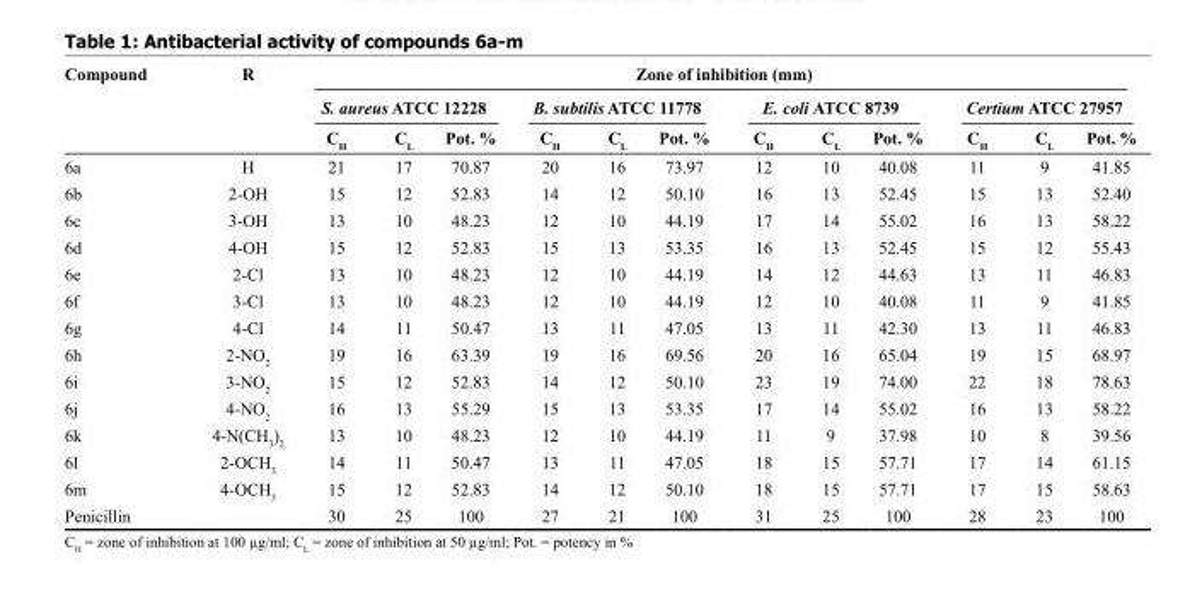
<table><thead><tr><td rowspan="3">Compound</td><td rowspan="3">R</td><td colspan="12">Zone of inhibition (mm)</td></tr><tr><td colspan="3">S. aureus ATCC 12228</td><td colspan="3">B. subtilis ATCC 11778</td><td colspan="3">E. coli ATCC 8739</td><td colspan="3">Certium ATCC 27957</td></tr><tr><td>C<sub>H</sub></td><td>C<sub>L</sub></td><td>Pot. %</td><td>C<sub>H</sub></td><td>C<sub>L</sub></td><td>Pot. %</td><td>C<sub>H</sub></td><td>C<sub>L</sub></td><td>Pot. %</td><td>C<sub>H</sub></td><td>C<sub>L</sub></td><td>Pot. %</td></tr></thead><tbody><tr><td>6a</td><td>H</td><td>21</td><td>17</td><td>70.87</td><td>20</td><td>16</td><td>73.97</td><td>12</td><td>10</td><td>40.08</td><td>11</td><td>9</td><td>41.85</td></tr><tr><td>6b</td><td>2-OH</td><td>15</td><td>12</td><td>52.83</td><td>14</td><td>12</td><td>50.10</td><td>16</td><td>13</td><td>52.45</td><td>15</td><td>13</td><td>52.40</td></tr><tr><td>6c</td><td>3-OH</td><td>13</td><td>10</td><td>48.23</td><td>12</td><td>10</td><td>44.19</td><td>17</td><td>14</td><td>55.02</td><td>16</td><td>13</td><td>58.22</td></tr><tr><td>6d</td><td>4-OH</td><td>15</td><td>12</td><td>52.83</td><td>15</td><td>13</td><td>53.35</td><td>16</td><td>13</td><td>52.45</td><td>15</td><td>12</td><td>55.43</td></tr><tr><td>6e</td><td>2-Cl</td><td>13</td><td>10</td><td>48.23</td><td>12</td><td>10</td><td>44.19</td><td>14</td><td>12</td><td>44.63</td><td>13</td><td>11</td><td>46.83</td></tr><tr><td>6f</td><td>3-Cl</td><td>13</td><td>10</td><td>48.23</td><td>12</td><td>10</td><td>44.19</td><td>12</td><td>10</td><td>40.08</td><td>11</td><td>9</td><td>41.85</td></tr><tr><td>6g</td><td>4-Cl</td><td>14</td><td>11</td><td>50.47</td><td>13</td><td>11</td><td>47.05</td><td>13</td><td>11</td><td>42.30</td><td>13</td><td>11</td><td>46.83</td></tr><tr><td>6h</td><td>2-NO<sub>2</sub></td><td>19</td><td>16</td><td>63.39</td><td>19</td><td>16</td><td>69.56</td><td>20</td><td>16</td><td>65.04</td><td>19</td><td>15</td><td>68.97</td></tr><tr><td>6i</td><td>3-NO<sub>2</sub></td><td>15</td><td>12</td><td>52.83</td><td>14</td><td>12</td><td>50.10</td><td>23</td><td>19</td><td>74.00</td><td>22</td><td>18</td><td>78.63</td></tr><tr><td>6j</td><td>4-NO<sub>2</sub></td><td>16</td><td>13</td><td>55.29</td><td>15</td><td>13</td><td>53.35</td><td>17</td><td>14</td><td>55.02</td><td>16</td><td>13</td><td>58.22</td></tr><tr><td>6k</td><td>4-N(CH<sub>3</sub>)<sub>2</sub></td><td>13</td><td>10</td><td>48.23</td><td>12</td><td>10</td><td>44.19</td><td>11</td><td>9</td><td>37.98</td><td>10</td><td>8</td><td>39.56</td></tr><tr><td>6l</td><td>2-OCH<sub>3</sub></td><td>14</td><td>11</td><td>50.47</td><td>13</td><td>11</td><td>47.05</td><td>18</td><td>15</td><td>57.71</td><td>17</td><td>14</td><td>61.15</td></tr><tr><td>6m</td><td>4-OCH<sub>3</sub></td><td>15</td><td>12</td><td>52.83</td><td>14</td><td>12</td><td>50.10</td><td>18</td><td>15</td><td>57.71</td><td>17</td><td>15</td><td>58.63</td></tr><tr><td>Penicillin</td><td></td><td>30</td><td>25</td><td>100</td><td>27</td><td>21</td><td>100</td><td>31</td><td>25</td><td>100</td><td>28</td><td>23</td><td>100</td></tr></tbody></table>